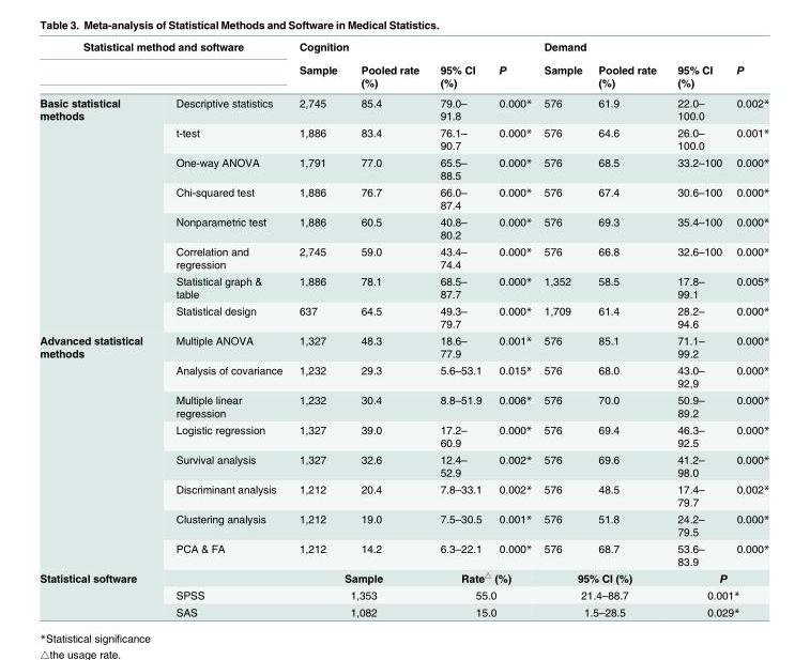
<table><thead><tr><td colspan="2">Statistical method and software</td><td rowspan="2">Cognition Sample</td><td rowspan="2">Pooled rate (%)</td><td rowspan="2">95% CI (%)</td><td rowspan="2">P</td><td rowspan="2">Demand Sample</td><td rowspan="2">Pooled rate (%)</td><td rowspan="2">95% CI (%)</td><td rowspan="2">P</td></tr><tr><td></td><td></td></tr></thead><tbody><tr><td rowspan="8">Basic statistical methods</td><td>Descriptive statistics</td><td>2,745</td><td>85.4</td><td>79.0– 91.8</td><td>0.000*</td><td>576</td><td>61.9</td><td>22.0– 100.0</td><td>0.002*</td></tr><tr><td>t-test</td><td>1,886</td><td>83.4</td><td>76.1– 90.7</td><td>0.000*</td><td>576</td><td>64.6</td><td>26.0– 100.0</td><td>0.001*</td></tr><tr><td>One-way ANOVA</td><td>1,791</td><td>77.0</td><td>65.5– 88.5</td><td>0.000*</td><td>576</td><td>68.5</td><td>33.2–100</td><td>0.000*</td></tr><tr><td>Chi-squared test</td><td>1,886</td><td>76.7</td><td>66.0– 87.4</td><td>0.000*</td><td>576</td><td>67.4</td><td>30.6–100</td><td>0.000*</td></tr><tr><td>Nonparametric test</td><td>1,886</td><td>60.5</td><td>40.8– 80.2</td><td>0.000*</td><td>576</td><td>69.3</td><td>35.4–100</td><td>0.000*</td></tr><tr><td>Correlation and regression</td><td>2,745</td><td>59.0</td><td>43.4– 74.4</td><td>0.000*</td><td>576</td><td>66.8</td><td>32.6–100</td><td>0.000*</td></tr><tr><td>Statistical graph &amp; table</td><td>1,886</td><td>78.1</td><td>68.5– 87.7</td><td>0.000*</td><td>1,352</td><td>58.5</td><td>17.8– 99.1</td><td>0.005*</td></tr><tr><td>Statistical design</td><td>637</td><td>64.5</td><td>49.3– 79.7</td><td>0.000*</td><td>1,709</td><td>61.4</td><td>28.2– 94.6</td><td>0.000*</td></tr><tr><td rowspan="8">Advanced statistical methods</td><td>Multiple ANOVA</td><td>1,327</td><td>48.3</td><td>18.6– 77.9</td><td>0.001*</td><td>576</td><td>85.1</td><td>71.1– 99.2</td><td>0.000*</td></tr><tr><td>Analysis of covariance</td><td>1,232</td><td>29.3</td><td>5.6–53.1</td><td>0.015*</td><td>576</td><td>68.0</td><td>43.0– 92,9</td><td>0.000*</td></tr><tr><td>Multiple linear regression</td><td>1,232</td><td>30.4</td><td>8.8–51.9</td><td>0.006*</td><td>576</td><td>70.0</td><td>50.9– 89.2</td><td>0.000*</td></tr><tr><td>Logistic regression</td><td>1,327</td><td>39.0</td><td>17.2– 60.9</td><td>0.000*</td><td>576</td><td>69.4</td><td>46.3– 92.5</td><td>0.000*</td></tr><tr><td>Survival analysis</td><td>1,327</td><td>32.6</td><td>12.4– 52.9</td><td>0.002*</td><td>576</td><td>69.6</td><td>41.2– 98.0</td><td>0.000*</td></tr><tr><td>Discriminant analysis</td><td>1,212</td><td>20.4</td><td>7.8–33.1</td><td>0.002*</td><td>576</td><td>48.5</td><td>17.4– 79.7</td><td>0.002*</td></tr><tr><td>Clustering analysis</td><td>1,212</td><td>19.0</td><td>7.5–30.5</td><td>0.001*</td><td>576</td><td>51.8</td><td>24.2– 79.5</td><td>0.000*</td></tr><tr><td>PCA &amp; FA</td><td>1,212</td><td>14.2</td><td>6.3–22.1</td><td>0.000*</td><td>576</td><td>68.7</td><td>53.6– 83.9</td><td>0.000*</td></tr><tr><td rowspan="3">Statistical software</td><td></td><td colspan="2">Sample</td><td colspan="2">Rate<sup>△</sup> (%)</td><td colspan="2">95% CI (%)</td><td colspan="2">P</td></tr><tr><td>SPSS</td><td colspan="2">1,353</td><td colspan="2">55.0</td><td colspan="2">21.4–88.7</td><td colspan="2">0.001*</td></tr><tr><td>SAS</td><td colspan="2">1,082</td><td colspan="2">15.0</td><td colspan="2">1.5–28.5</td><td colspan="2">0.029*</td></tr></tbody></table>